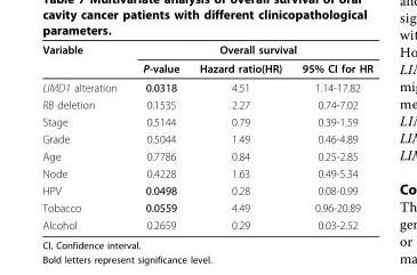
<table><thead><tr><td rowspan="2">Variable</td><td colspan="3">Overall survival</td></tr><tr><td>P-value</td><td>Hazard ratio(HR)</td><td>95% CI for HR</td></tr></thead><tbody><tr><td>LIMD1 alteration</td><td>0.0318</td><td>4.51</td><td>1.14-17.82</td></tr><tr><td>RB deletion</td><td>0.1535</td><td>2.27</td><td>0.74-7.02</td></tr><tr><td>Stage</td><td>0.5144</td><td>0.79</td><td>0.39-1.59</td></tr><tr><td>Grade</td><td>0.5044</td><td>1.49</td><td>0.46-4.89</td></tr><tr><td>Age</td><td>0.7786</td><td>0.84</td><td>0.25-2.85</td></tr><tr><td>Node</td><td>0.4228</td><td>1.63</td><td>0.49-5.34</td></tr><tr><td>HPV</td><td>0.0498</td><td>0.28</td><td>0.08-0.99</td></tr><tr><td>Tobacco</td><td>0.0559</td><td>4.49</td><td>0.96-20.89</td></tr><tr><td>Alcohol</td><td>0.2659</td><td>0.29</td><td>0.03-2.52</td></tr></tbody></table>